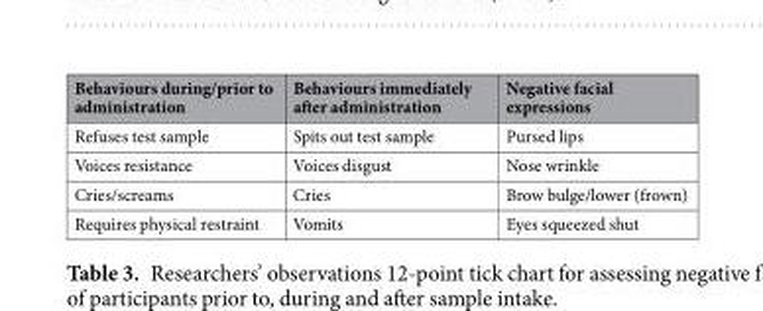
<table><thead><tr><td>Behaviours during/prior to administration</td><td>Behaviours immediately after administration</td><td>Negative facial expressions</td></tr></thead><tbody><tr><td>Refuses test sample</td><td>Spits out test sample</td><td>Pursed lips</td></tr><tr><td>Voices resistance</td><td>Voices disgust</td><td>Nose wrinkle</td></tr><tr><td>Cries/screams</td><td>Cries</td><td>Brow bulge/lower (frown)</td></tr><tr><td>Requires physical restraint</td><td>Vomits</td><td>Eyes squeezed shut</td></tr></tbody></table>